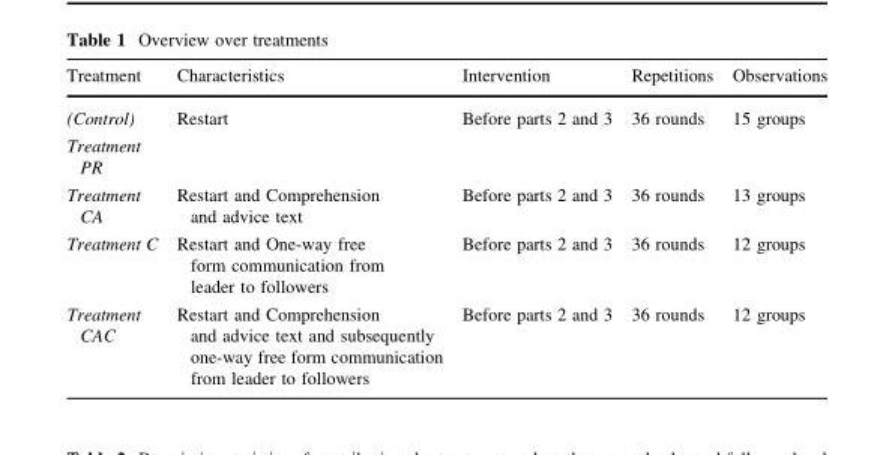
<table><thead><tr><td>Treatment</td><td>Characteristics</td><td>Intervention</td><td>Repetitions</td><td>Observations</td></tr></thead><tbody><tr><td>(Control) Treatment PR</td><td>Restart</td><td>Before parts 2 and 3</td><td>36 rounds</td><td>15 groups</td></tr><tr><td>Treatment CA</td><td>Restart and Comprehension and advice text</td><td>Before parts 2 and 3</td><td>36 rounds</td><td>13 groups</td></tr><tr><td>Treatment C</td><td>Restart and One-way free form communication from leader to followers</td><td>Before parts 2 and 3</td><td>36 rounds</td><td>12 groups</td></tr><tr><td>Treatment CAC</td><td>Restart and Comprehension and advice text and subsequently one-way free form communication from leader to followers</td><td>Before parts 2 and 3</td><td>36 rounds</td><td>12 groups</td></tr></tbody></table>